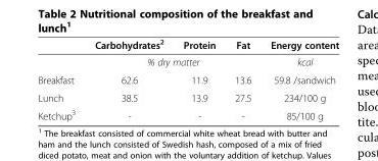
<table><thead><tr><td></td><td>Carbohydrates<sup>2</sup></td><td>Protein</td><td>Fat</td><td>Energy content</td></tr></thead><tbody><tr><td></td><td colspan="3">% dry matter</td><td>kcal</td></tr><tr><td>Breakfast</td><td>62.6</td><td>11.9</td><td>13.6</td><td>59.8 /sandwich</td></tr><tr><td>Lunch</td><td>38.5</td><td>13.9</td><td>27.5</td><td>234/100 g</td></tr><tr><td>Ketchup<sup>3</sup></td><td>-</td><td>-</td><td>-</td><td>85/100 g</td></tr></tbody></table>